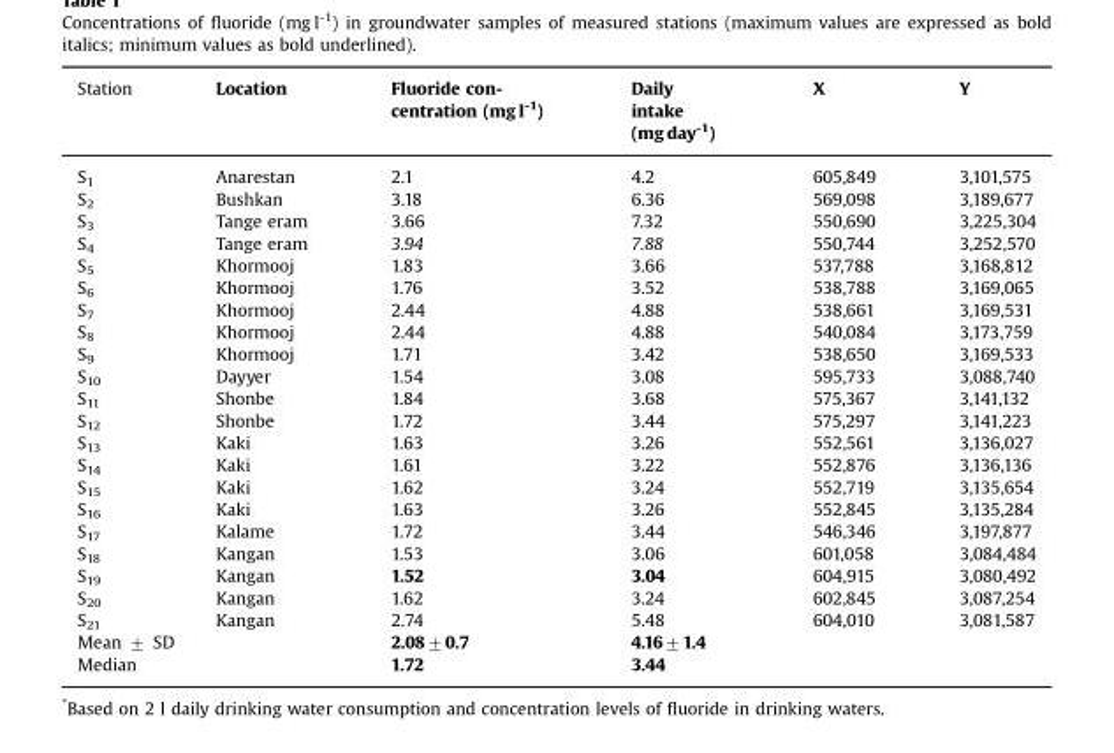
<table><thead><tr><td>Station</td><td>Location</td><td>Fluoride con- centration (mg l-1)</td><td>Daily intake (mg day<sup>-1</sup>)</td><td>X</td><td>Y</td></tr></thead><tbody><tr><td>S<sub>1</sub></td><td>Anarestan</td><td>2.1</td><td>4.2</td><td>605,849</td><td>3,101,575</td></tr><tr><td>S<sub>2</sub></td><td>Bushkan</td><td>3.18</td><td>6.36</td><td>569,098</td><td>3,189,677</td></tr><tr><td>S<sub>3</sub></td><td>Tange eram</td><td>3.66</td><td>7.32</td><td>550,690</td><td>3,225,304</td></tr><tr><td>S<sub>4</sub></td><td>Tange eram</td><td>3.94</td><td>7.88</td><td>550,744</td><td>3,252,570</td></tr><tr><td>S<sub>5</sub></td><td>Khormooj</td><td>1.83</td><td>3.66</td><td>537,788</td><td>3,168,812</td></tr><tr><td>S<sub>6</sub></td><td>Khormooj</td><td>1.76</td><td>3.52</td><td>538,788</td><td>3,169,065</td></tr><tr><td>S<sub>7</sub></td><td>Khormooj</td><td>2.44</td><td>4.88</td><td>538,661</td><td>3,169,531</td></tr><tr><td>S<sub>8</sub></td><td>Khormooj</td><td>2.44</td><td>4.88</td><td>540,084</td><td>3,173,759</td></tr><tr><td>S<sub>9</sub></td><td>Khormooj</td><td>1.71</td><td>3.42</td><td>538,650</td><td>3,169,533</td></tr><tr><td>S<sub>10</sub></td><td>Dayyer</td><td>1.54</td><td>3.08</td><td>595,733</td><td>3,088,740</td></tr><tr><td>S<sub>11</sub></td><td>Shonbe</td><td>1.84</td><td>3.68</td><td>575,367</td><td>3,141,132</td></tr><tr><td>S<sub>12</sub></td><td>Shonbe</td><td>1.72</td><td>3.44</td><td>575,297</td><td>3,141,223</td></tr><tr><td>S<sub>13</sub></td><td>Kaki</td><td>1.63</td><td>3.26</td><td>552,561</td><td>3,136,027</td></tr><tr><td>S<sub>14</sub></td><td>Kaki</td><td>1.61</td><td>3.22</td><td>552,876</td><td>3,136,136</td></tr><tr><td>S<sub>15</sub></td><td>Kaki</td><td>1.62</td><td>3.24</td><td>552,719</td><td>3,135,654</td></tr><tr><td>S<sub>16</sub></td><td>Kaki</td><td>1.63</td><td>3.26</td><td>552,845</td><td>3,135,284</td></tr><tr><td>S<sub>17</sub></td><td>Kalame</td><td>1.72</td><td>3.44</td><td>546,346</td><td>3,197,877</td></tr><tr><td>S<sub>18</sub></td><td>Kangan</td><td>1.53</td><td>3.06</td><td>601,058</td><td>3,084,484</td></tr><tr><td>S<sub>19</sub></td><td>Kangan</td><td>1.52</td><td>3.04</td><td>604,915</td><td>3,080,492</td></tr><tr><td>S<sub>20</sub></td><td>Kangan</td><td>1.62</td><td>3.24</td><td>602,845</td><td>3,087,254</td></tr><tr><td>S<sub>21</sub></td><td>Kangan</td><td>2.74</td><td>5.48</td><td>604,010</td><td>3,081,587</td></tr><tr><td colspan="2">Mean ± SD</td><td>2.08±0.7</td><td>4.16±1.4</td><td></td><td></td></tr><tr><td colspan="2">Median</td><td>1.72</td><td>3.44</td><td></td><td></td></tr></tbody></table>